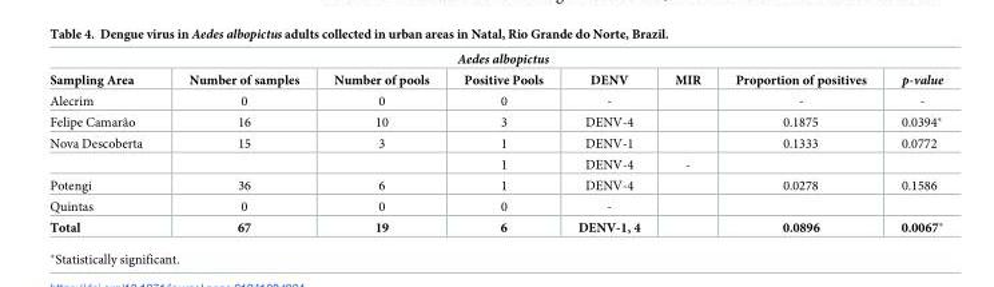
<table><thead><tr><td colspan="8">Aedes albopictus</td></tr><tr><td>Sampling Area</td><td>Number of samples</td><td>Number of pools</td><td>Positive Pools</td><td>DENV</td><td>MIR</td><td>Proportion of positives</td><td>p-value</td></tr></thead><tbody><tr><td>Alecrim</td><td>0</td><td>0</td><td>0</td><td>-</td><td></td><td>-</td><td>-</td></tr><tr><td>Felipe Camarão</td><td>16</td><td>10</td><td>3</td><td>DENV-4</td><td></td><td>0.1875</td><td>0.0394*</td></tr><tr><td rowspan="2">Nova Descoberta</td><td>15</td><td>3</td><td>1</td><td>DENV-1</td><td></td><td>0.1333</td><td>0.0772</td></tr><tr><td></td><td></td><td>1</td><td>DENV-4</td><td>-</td><td></td><td></td></tr><tr><td>Potengi</td><td>36</td><td>6</td><td>1</td><td>DENV-4</td><td></td><td>0.0278</td><td>0.1586</td></tr><tr><td>Quintas</td><td>0</td><td>0</td><td>0</td><td>-</td><td></td><td></td><td></td></tr><tr><td>Total</td><td>67</td><td>19</td><td>6</td><td>DENV-1, 4</td><td></td><td>0.0896</td><td>0.0067*</td></tr></tbody></table>